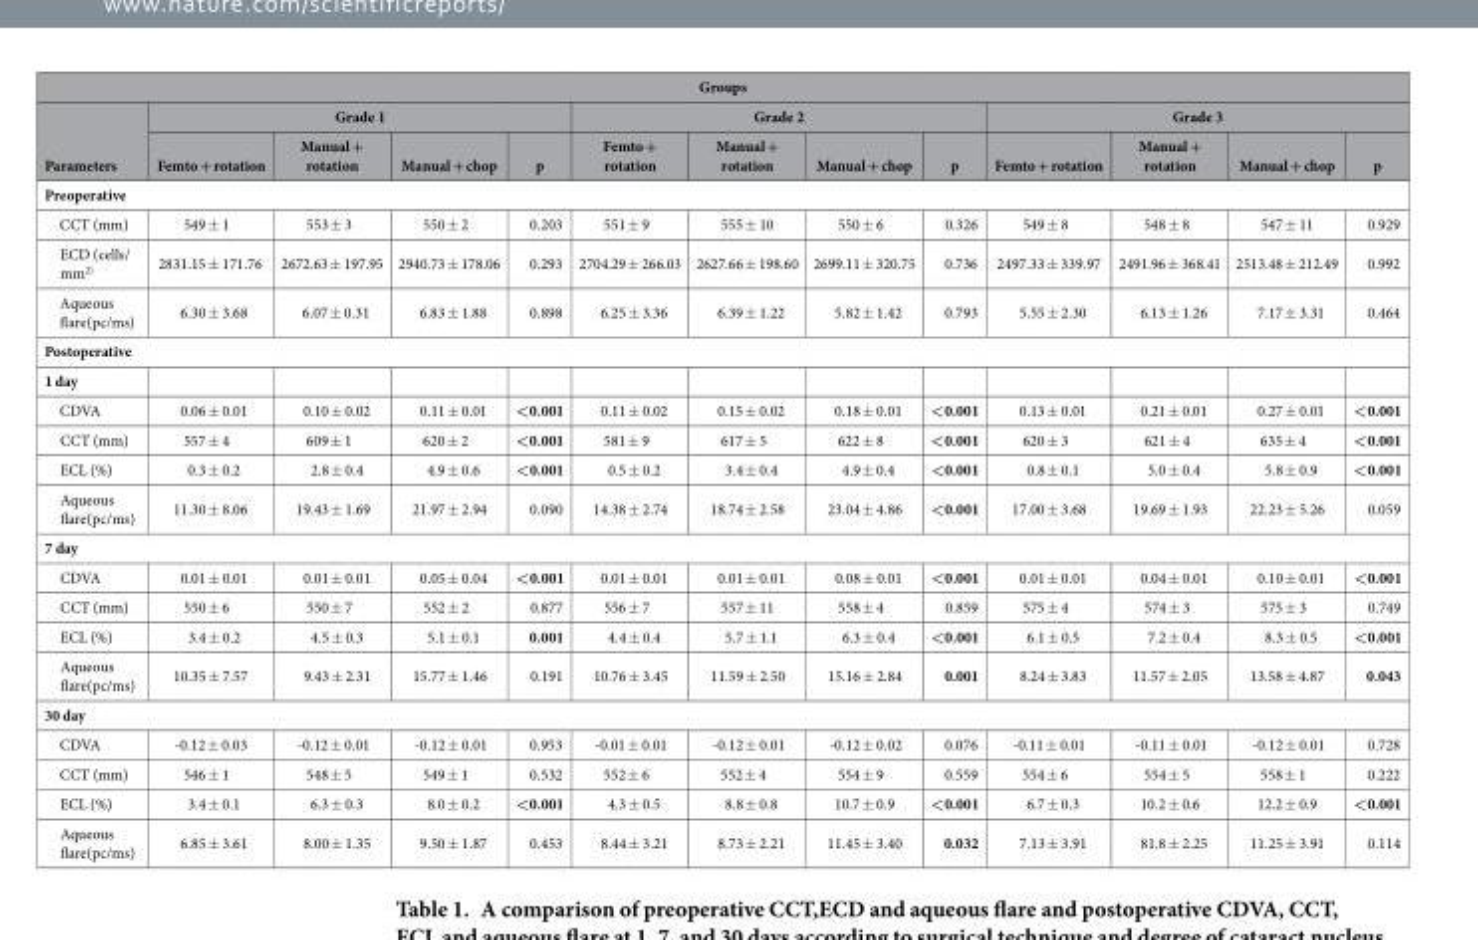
<table><thead><tr><td colspan="13">Groups</td></tr><tr><td rowspan="2">Parameters</td><td colspan="4">Grade 1</td><td colspan="4">Grade 2</td><td colspan="4">Grade 3</td></tr><tr><td>Femto + rotation</td><td>Manual + rotation</td><td>Manual + chop</td><td>p</td><td>Femto + rotation</td><td>Manual + rotation</td><td>Manual + chop</td><td>p</td><td>Femto + rotation</td><td>Manual + rotation</td><td>Manual + chop</td><td>p</td></tr></thead><tbody><tr><td colspan="13">Preoperative</td></tr><tr><td>CCT (mm)</td><td>549 ± 1</td><td>553 ± 3</td><td>550 ± 2</td><td>0.203</td><td>551 ± 9</td><td>555 ± 10</td><td>550 ± 6</td><td>0.326</td><td>549 ± 8</td><td>548 ± 8</td><td>547 ± 11</td><td>0.929</td></tr><tr><td>ECD (cells/ mm<sup>2)</sup></td><td>2831.15 ± 171.76</td><td>2672.63 ± 197.95</td><td>2940.73 ± 178.06</td><td>0.293</td><td>2704.29 ± 266.03</td><td>2627.66 ± 198.60</td><td>2699.11 ± 320.75</td><td>0.736</td><td>2497.33 ± 339.97</td><td>2491.96 ± 368.41</td><td>2513.48 ± 212.49</td><td>0.992</td></tr><tr><td>Aqueous flare(pc/ms)</td><td>6.30 ± 3.68</td><td>6.07 ± 0.31</td><td>6.83 ± 1.88</td><td>0.898</td><td>6.25 ± 3.36</td><td>6.39 ± 1.22</td><td>5.82 ± 1.42</td><td>0.793</td><td>5.55 ± 2.30</td><td>6.13 ± 1.26</td><td>7.17 ± 3.31</td><td>0.464</td></tr><tr><td colspan="13">Postoperative</td></tr><tr><td colspan="13">1 day</td></tr><tr><td>CDVA</td><td>0.06 ± 0.01</td><td>0.10 ± 0.02</td><td>0.11 ± 0.01</td><td>&lt;0.001</td><td>0.11 ± 0.02</td><td>0.15 ± 0.02</td><td>0.18 ± 0.01</td><td>&lt;0.001</td><td>0.13 ± 0.01</td><td>0.21 ± 0.01</td><td>0.27 ± 0.01</td><td>&lt;0.001</td></tr><tr><td>CCT (mm)</td><td>557 ± 4</td><td>609 ± 1</td><td>620 ± 2</td><td>&lt;0.001</td><td>581 ± 9</td><td>617 ± 5</td><td>622 ± 8</td><td>&lt;0.001</td><td>620 ± 3</td><td>621 ± 4</td><td>635 ± 4</td><td>&lt;0.001</td></tr><tr><td>ECL (%)</td><td>0.3 ± 0.2</td><td>2.8 ± 0.4</td><td>4.9 ± 0.6</td><td>&lt;0.001</td><td>0.5 ± 0.2</td><td>3.4 ± 0.4</td><td>4.9 ± 0.4</td><td>&lt;0.001</td><td>0.8 ± 0.1</td><td>5.0 ± 0.4</td><td>5.8 ± 0.9</td><td>&lt;0.001</td></tr><tr><td>Aqueous flare(pc/ms)</td><td>11.30 ± 8.06</td><td>19.43 ± 1.69</td><td>21.97 ± 2.94</td><td>0.090</td><td>14.38 ± 2.74</td><td>18.74 ± 2.58</td><td>23.04 ± 4.86</td><td>&lt;0.001</td><td>17.00 ± 3.68</td><td>19.69 ± 1.93</td><td>22.23 ± 5.26</td><td>0.059</td></tr><tr><td colspan="13">7 day</td></tr><tr><td>CDVA</td><td>0.01 ± 0.01</td><td>0.01 ± 0.01</td><td>0.05 ± 0.04</td><td>&lt;0.001</td><td>0.01 ± 0.01</td><td>0.01 ± 0.01</td><td>0.08 ± 0.01</td><td>&lt;0.001</td><td>0.01 ± 0.01</td><td>0.04 ± 0.01</td><td>0.10 ± 0.01</td><td>&lt;0.001</td></tr><tr><td>CCT (mm)</td><td>550 ± 6</td><td>550 ± 7</td><td>552 ± 2</td><td>0.877</td><td>556 ± 7</td><td>557 ± 11</td><td>558 ± 4</td><td>0.859</td><td>575 ± 4</td><td>574 ± 3</td><td>575 ± 3</td><td>0.749</td></tr><tr><td>ECL (%)</td><td>3.4 ± 0.2</td><td>4.5 ± 0.3</td><td>5.1 ± 0.1</td><td>0.001</td><td>4.4 ± 0.4</td><td>5.7 ± 1.1</td><td>6.3 ± 0.4</td><td>&lt;0.001</td><td>6.1 ± 0.5</td><td>7.2 ± 0.4</td><td>8.3 ± 0.5</td><td>&lt;0.001</td></tr><tr><td>Aqueous flare(pc/ms)</td><td>10.35 ± 7.57</td><td>9.43 ± 2.31</td><td>15.77 ± 1.46</td><td>0.191</td><td>10.76 ± 3.45</td><td>11.59 ± 2.50</td><td>15.16 ± 2.84</td><td>0.001</td><td>8.24 ± 3.83</td><td>11.57 ± 2.05</td><td>13.58 ± 4.87</td><td>0.043</td></tr><tr><td colspan="13">30 day</td></tr><tr><td>CDVA</td><td>-0.12 ± 0.03</td><td>-0.12 ± 0.01</td><td>-0.12 ± 0.01</td><td>0.953</td><td>-0.01 ± 0.01</td><td>-0.12 ± 0.01</td><td>-0.12 ± 0.02</td><td>0.076</td><td>-0.11 ± 0.01</td><td>-0.11 ± 0.01</td><td>-0.12 ± 0.01</td><td>0.728</td></tr><tr><td>CCT (mm)</td><td>546 ± 1</td><td>548 ± 5</td><td>549 ± 1</td><td>0.532</td><td>552 ± 6</td><td>552 ± 4</td><td>554 ± 9</td><td>0.559</td><td>554 ± 6</td><td>554 ± 5</td><td>558 ± 1</td><td>0.222</td></tr><tr><td>ECL (%)</td><td>3.4 ± 0.1</td><td>6.3 ± 0.3</td><td>8.0 ± 0.2</td><td>&lt;0.001</td><td>4.3 ± 0.5</td><td>8.8 ± 0.8</td><td>10.7 ± 0.9</td><td>&lt;0.001</td><td>6.7 ± 0.3</td><td>10.2 ± 0.6</td><td>12.2 ± 0.9</td><td>&lt;0.001</td></tr><tr><td>Aqueous flare(pc/ms)</td><td>6.85 ± 3.61</td><td>8.00 ± 1.35</td><td>9.50 ± 1.87</td><td>0.453</td><td>8.44 ± 3.21</td><td>8.73 ± 2.21</td><td>11.45 ± 3.40</td><td>0.032</td><td>7.13 ± 3.91</td><td>81.8 ± 2.25</td><td>11.25 ± 3.91</td><td>0.114</td></tr></tbody></table>